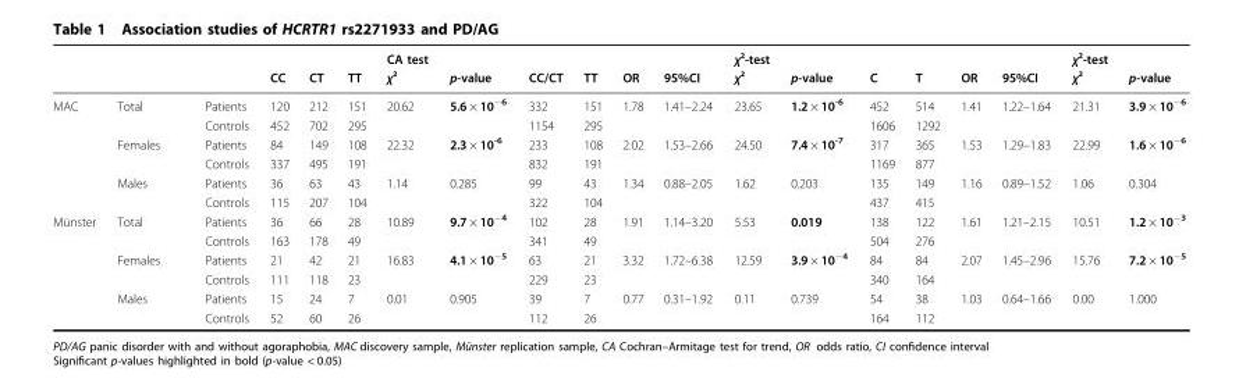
<table><thead><tr><td rowspan="2"></td><td rowspan="2"></td><td rowspan="2"></td><td rowspan="2">CC</td><td rowspan="2">CT</td><td rowspan="2">TT</td><td rowspan="2">CA test χ²</td><td rowspan="2">p-value</td><td rowspan="2">CC/CT</td><td rowspan="2">TT</td><td rowspan="2">OR</td><td rowspan="2">95%CI</td><td rowspan="2">χ²-test χ²</td><td rowspan="2">p-value</td><td rowspan="2">C</td><td rowspan="2">T</td><td rowspan="2">OR</td><td rowspan="2">95%CI</td><td rowspan="2">χ²-test χ²</td><td rowspan="2">p-value</td></tr><tr></tr></thead><tbody><tr><td rowspan="6">MAC</td><td>Total</td><td>Patients</td><td>120</td><td>212</td><td>151</td><td>20.62</td><td>5.6 × 10<sup>−6</sup></td><td>332</td><td>151</td><td>1.78</td><td>1.41–2.24</td><td>23.65</td><td>1.2 × 10<sup>-6</sup></td><td>452</td><td>514</td><td>1.41</td><td>1.22–1.64</td><td>21.31</td><td>3.9 × 10<sup>−6</sup></td></tr><tr><td></td><td>Controls</td><td>452</td><td>702</td><td>295</td><td></td><td></td><td>1154</td><td>295</td><td></td><td></td><td></td><td></td><td>1606</td><td>1292</td><td></td><td></td><td></td><td></td></tr><tr><td>Females</td><td>Patients</td><td>84</td><td>149</td><td>108</td><td>22.32</td><td>2.3 × 10<sup>-6</sup></td><td>233</td><td>108</td><td>2.02</td><td>1.53–2.66</td><td>24.50</td><td>7.4 × 10<sup>-7</sup></td><td>317</td><td>365</td><td>1.53</td><td>1.29–1.83</td><td>22.99</td><td>1.6 × 10<sup>−6</sup></td></tr><tr><td></td><td>Controls</td><td>337</td><td>495</td><td>191</td><td></td><td></td><td>832</td><td>191</td><td></td><td></td><td></td><td></td><td>1169</td><td>877</td><td></td><td></td><td></td><td></td></tr><tr><td>Males</td><td>Patients</td><td>36</td><td>63</td><td>43</td><td>1.14</td><td>0.285</td><td>99</td><td>43</td><td>1.34</td><td>0.88–2.05</td><td>1.62</td><td>0.203</td><td>135</td><td>149</td><td>1.16</td><td>0.89–1.52</td><td>1.06</td><td>0.304</td></tr><tr><td></td><td>Controls</td><td>115</td><td>207</td><td>104</td><td></td><td></td><td>322</td><td>104</td><td></td><td></td><td></td><td></td><td>437</td><td>415</td><td></td><td></td><td></td><td></td></tr><tr><td rowspan="6">Münster</td><td>Total</td><td>Patients</td><td>36</td><td>66</td><td>28</td><td>10.89</td><td>9.7 × 10<sup>−4</sup></td><td>102</td><td>28</td><td>1.91</td><td>1.14–3.20</td><td>5.53</td><td>0.019</td><td>138</td><td>122</td><td>1.61</td><td>1.21–2.15</td><td>10.51</td><td>1.2 × 10<sup>−3</sup></td></tr><tr><td></td><td>Controls</td><td>163</td><td>178</td><td>49</td><td></td><td></td><td>341</td><td>49</td><td></td><td></td><td></td><td></td><td>504</td><td>276</td><td></td><td></td><td></td><td></td></tr><tr><td>Females</td><td>Patients</td><td>21</td><td>42</td><td>21</td><td>16.83</td><td>4.1 × 10<sup>−5</sup></td><td>63</td><td>21</td><td>3.32</td><td>1.72–6.38</td><td>12.59</td><td>3.9 × 10<sup>−4</sup></td><td>84</td><td>84</td><td>2.07</td><td>1.45–2.96</td><td>15.76</td><td>7.2 × 10<sup>−5</sup></td></tr><tr><td></td><td>Controls</td><td>111</td><td>118</td><td>23</td><td></td><td></td><td>229</td><td>23</td><td></td><td></td><td></td><td></td><td>340</td><td>164</td><td></td><td></td><td></td><td></td></tr><tr><td>Males</td><td>Patients</td><td>15</td><td>24</td><td>7</td><td>0.01</td><td>0.905</td><td>39</td><td>7</td><td>0.77</td><td>0.31–1.92</td><td>0.11</td><td>0.739</td><td>54</td><td>38</td><td>1.03</td><td>0.64–1.66</td><td>0.00</td><td>1.000</td></tr><tr><td></td><td>Controls</td><td>52</td><td>60</td><td>26</td><td></td><td></td><td>112</td><td>26</td><td></td><td></td><td></td><td></td><td>164</td><td>112</td><td></td><td></td><td></td><td></td></tr></tbody></table>